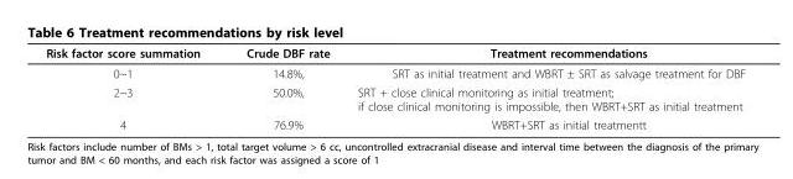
<table><thead><tr><td>Risk factor score summation</td><td>Crude DBF rate</td><td>Treatment recommendations</td></tr></thead><tbody><tr><td>0~1</td><td>14.8%,</td><td>SRT as initial treatment and WBRT ± SRT as salvage treatment for DBF</td></tr><tr><td>2~3</td><td>50.0%,</td><td>SRT + close clinical monitoring as initial treatment; if close clinical monitoring is impossible, then WBRT+SRT as initial treatment</td></tr><tr><td>4</td><td>76.9%</td><td>WBRT+SRT as initial treatmentt</td></tr></tbody></table>